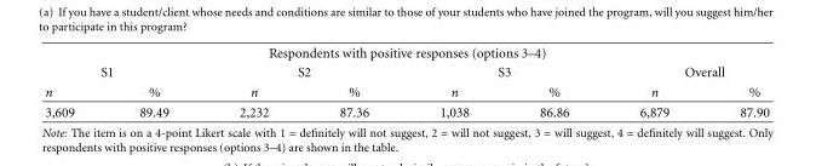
<table><thead><tr><td colspan="8">Respondents with positive responses (options 3–4)</td></tr><tr><td colspan="2">S1</td><td colspan="2">S2</td><td colspan="2">S3</td><td colspan="2">Overall</td></tr><tr><td>n</td><td>%</td><td>n</td><td>%</td><td>n</td><td>%</td><td>n</td><td>%</td></tr></thead><tbody><tr><td>3,609</td><td>89.49</td><td>2,232</td><td>87.36</td><td>1,038</td><td>86.86</td><td>6,879</td><td>87.90</td></tr></tbody></table>